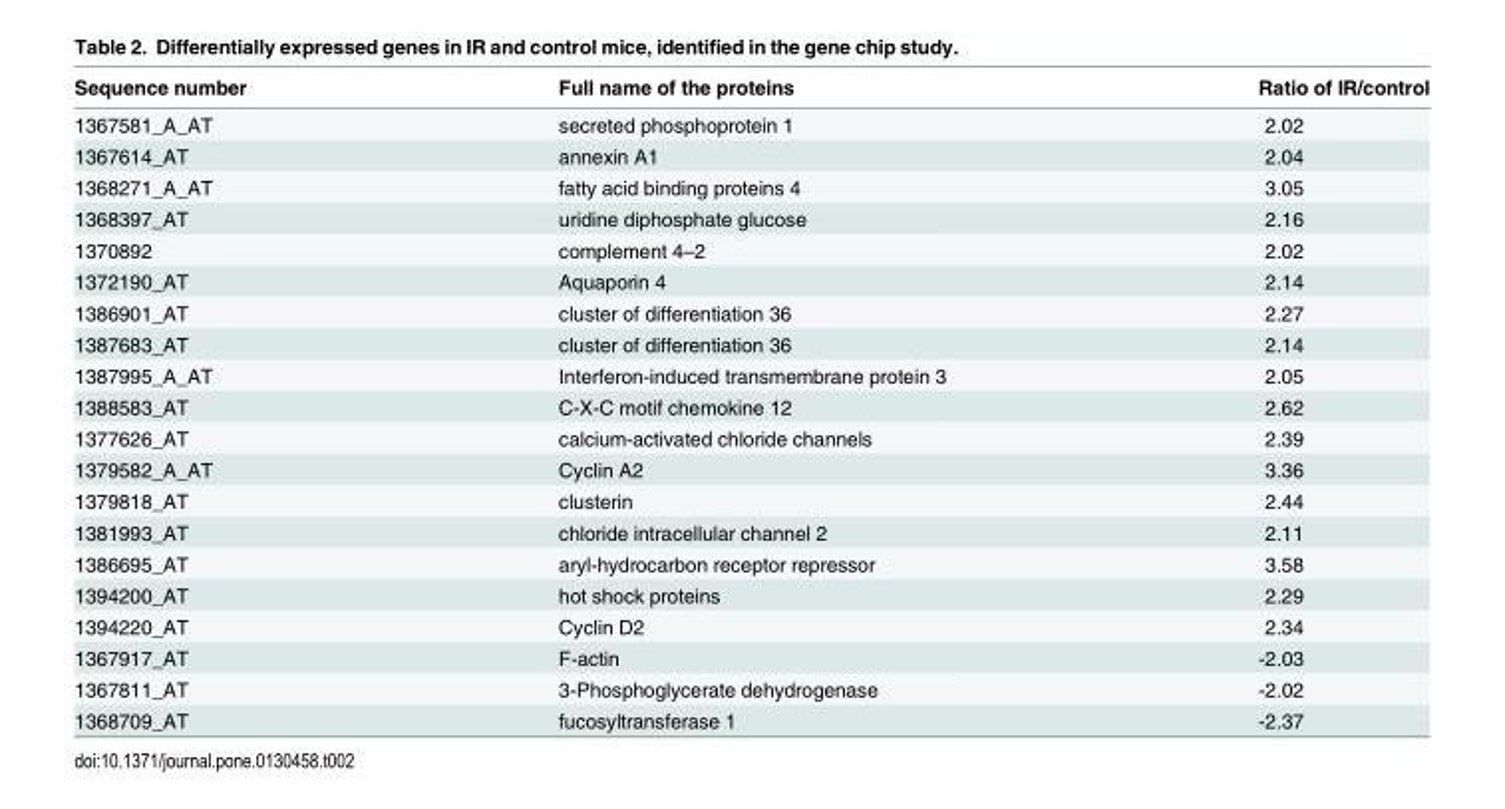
<table><thead><tr><td>Sequence number</td><td>Full name of the proteins</td><td>Ratio of IR/control</td></tr></thead><tbody><tr><td>1367581_A_AT</td><td>secreted phosphoprotein 1</td><td>2.02</td></tr><tr><td>1367614_AT</td><td>annexin A1</td><td>2.04</td></tr><tr><td>1368271_A_AT</td><td>fatty acid binding proteins 4</td><td>3.05</td></tr><tr><td>1368397_AT</td><td>uridine diphosphate glucose</td><td>2.16</td></tr><tr><td>1370892</td><td>complement 4–2</td><td>2.02</td></tr><tr><td>1372190_AT</td><td>Aquaporin 4</td><td>2.14</td></tr><tr><td>1386901_AT</td><td>cluster of differentiation 36</td><td>2.27</td></tr><tr><td>1387683_AT</td><td>cluster of differentiation 36</td><td>2.14</td></tr><tr><td>1387995_A_AT</td><td>Interferon-induced transmembrane protein 3</td><td>2.05</td></tr><tr><td>1388583_AT</td><td>C-X-C motif chemokine 12</td><td>2.62</td></tr><tr><td>1377626_AT</td><td>calcium-activated chloride channels</td><td>2.39</td></tr><tr><td>1379582_A_AT</td><td>Cyclin A2</td><td>3.36</td></tr><tr><td>1379818_AT</td><td>clusterin</td><td>2.44</td></tr><tr><td>1381993_AT</td><td>chloride intracellular channel 2</td><td>2.11</td></tr><tr><td>1386695_AT</td><td>aryl-hydrocarbon receptor repressor</td><td>3.58</td></tr><tr><td>1394200_AT</td><td>hot shock proteins</td><td>2.29</td></tr><tr><td>1394220_AT</td><td>Cyclin D2</td><td>2.34</td></tr><tr><td>1367917_AT</td><td>F-actin</td><td>-2.03</td></tr><tr><td>1367811_AT</td><td>3-Phosphoglycerate dehydrogenase</td><td>-2.02</td></tr><tr><td>1368709_AT</td><td>fucosyltransferase 1</td><td>-2.37</td></tr></tbody></table>